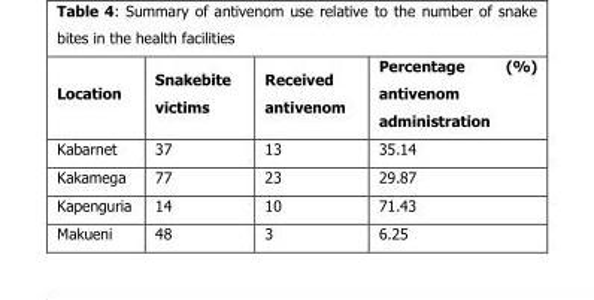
<table><thead><tr><td>Location</td><td>Snakebite victims</td><td>Received antivenom</td><td>Percentage (%) antivenom administration</td></tr></thead><tbody><tr><td>Kabarnet</td><td>37</td><td>13</td><td>35.14</td></tr><tr><td>Kakamega</td><td>77</td><td>23</td><td>29.87</td></tr><tr><td>Kapenguria</td><td>14</td><td>10</td><td>71.43</td></tr><tr><td>Makueni</td><td>48</td><td>3</td><td>6.25</td></tr></tbody></table>